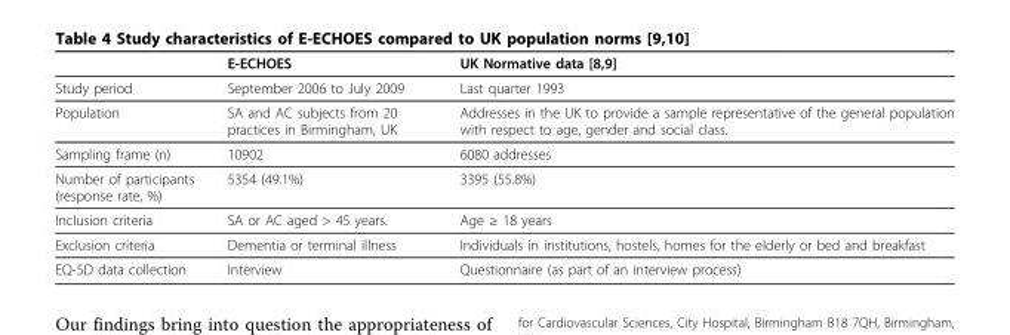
<table><thead><tr><td></td><td>E-ECHOES</td><td>UK Normative data [8,9]</td></tr></thead><tbody><tr><td>Study period</td><td>September 2006 to July 2009</td><td>Last quarter 1993</td></tr><tr><td>Population</td><td>SA and AC subjects from 20 practices in Birmingham, UK</td><td>Addresses in the UK to provide a sample representative of the general population with respect to age, gender and social class.</td></tr><tr><td>Sampling frame (n)</td><td>10902</td><td>6080 addresses</td></tr><tr><td>Number of participants (response rate, %)</td><td>5354 (49.1%)</td><td>3395 (55.8%)</td></tr><tr><td>Inclusion criteria</td><td>SA or AC aged &gt; 45 years.</td><td>Age ≥ 18 years</td></tr><tr><td>Exclusion criteria</td><td>Dementia or terminal illness</td><td>Individuals in institutions, hostels, homes for the elderly or bed and breakfast</td></tr><tr><td>EQ-5D data collection</td><td>Interview</td><td>Questionnaire (as part of an interview process)</td></tr></tbody></table>